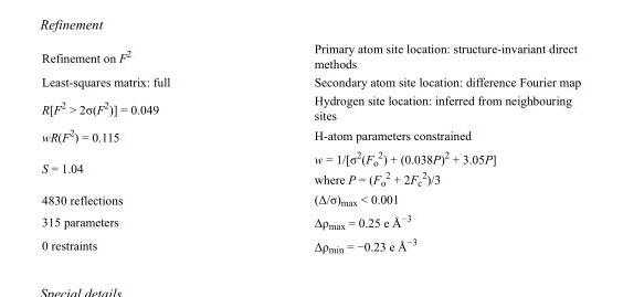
<table><tbody><tr><td>Refinement on F<sup>2</sup></td><td>Primary atom site location: structure-invariant direct methods</td></tr><tr><td>Least-squares matrix: full</td><td>Secondary atom site location: difference Fourier map</td></tr><tr><td>R[F<sup>2</sup> &gt; 2σ(F<sup>2</sup>)] = 0.049</td><td>Hydrogen site location: inferred from neighbouring sites</td></tr><tr><td>wR(F<sup>2</sup>) = 0.115</td><td>H-atom parameters constrained</td></tr><tr><td>S = 1.04</td><td>w = 1/[σ<sup>2</sup>(F<sub>o</sub> <sup>2</sup>) + (0.038P)<sup>2</sup> + 3.05P] where P = (F<sub>o</sub> <sup>2</sup> + 2F<sub>c</sub> <sup>2</sup>)/3</td></tr><tr><td>4830 reflections</td><td>(Δ/σ)<sub>max</sub> &lt; 0.001</td></tr><tr><td>315 parameters</td><td>Δρ<sub>max</sub> = 0.25 e Å<sup>−3</sup></td></tr><tr><td>0 restraints</td><td>Δρ<sub>min</sub> = −0.23 e Å<sup>−3</sup></td></tr></tbody></table>